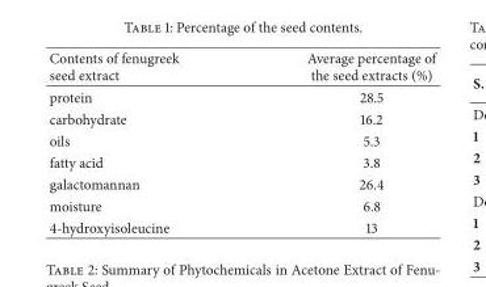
<table><thead><tr><td>Contents of fenugreek seed extract</td><td>Average percentage of the seed extracts (%)</td></tr></thead><tbody><tr><td>protein</td><td>28.5</td></tr><tr><td>carbohydrate</td><td>16.2</td></tr><tr><td>oils</td><td>5.3</td></tr><tr><td>fatty acid</td><td>3.8</td></tr><tr><td>galactomannan</td><td>26.4</td></tr><tr><td>moisture</td><td>6.8</td></tr><tr><td>4-hydroxyisoleucine</td><td>13</td></tr></tbody></table>